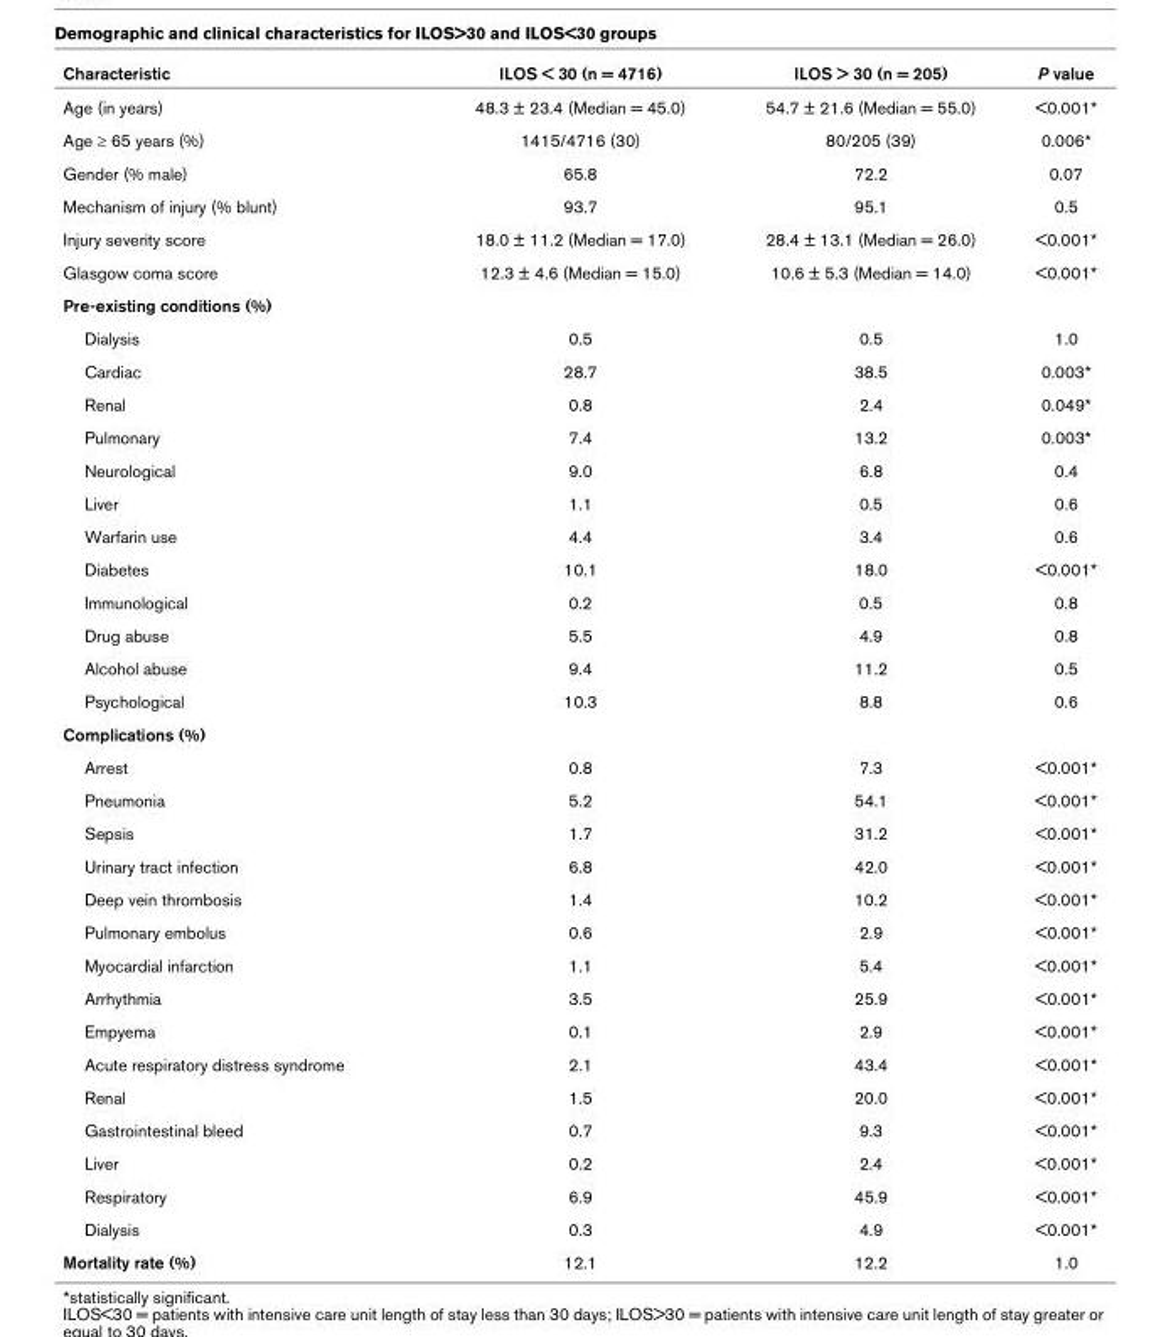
<table><thead><tr><td>Characteristic</td><td>ILOS &lt; 30 (n = 4716)</td><td>ILOS &gt; 30 (n = 205)</td><td>P value</td></tr></thead><tbody><tr><td>Age (in years)</td><td>48.3 ± 23.4 (Median = 45.0)</td><td>54.7 ± 21.6 (Median = 55.0)</td><td>&lt;0.001*</td></tr><tr><td>Age ≥ 65 years (%)</td><td>1415/4716 (30)</td><td>80/205 (39)</td><td>0.006*</td></tr><tr><td>Gender (% male)</td><td>65.8</td><td>72.2</td><td>0.07</td></tr><tr><td>Mechanism of injury (% blunt)</td><td>93.7</td><td>95.1</td><td>0.5</td></tr><tr><td>Injury severity score</td><td>18.0 ± 11.2 (Median = 17.0)</td><td>28.4 ± 13.1 (Median = 26.0)</td><td>&lt;0.001*</td></tr><tr><td>Glasgow coma score</td><td>12.3 ± 4.6 (Median = 15.0)</td><td>10.6 ± 5.3 (Median = 14.0)</td><td>&lt;0.001*</td></tr><tr><td colspan="4">Pre-existing conditions (%)</td></tr><tr><td>Dialysis</td><td>0.5</td><td>0.5</td><td>1.0</td></tr><tr><td>Cardiac</td><td>28.7</td><td>38.5</td><td>0.003*</td></tr><tr><td>Renal</td><td>0.8</td><td>2.4</td><td>0.049*</td></tr><tr><td>Pulmonary</td><td>7.4</td><td>13.2</td><td>0.003*</td></tr><tr><td>Neurological</td><td>9.0</td><td>6.8</td><td>0.4</td></tr><tr><td>Liver</td><td>1.1</td><td>0.5</td><td>0.6</td></tr><tr><td>Warfarin use</td><td>4.4</td><td>3.4</td><td>0.6</td></tr><tr><td>Diabetes</td><td>10.1</td><td>18.0</td><td>&lt;0.001*</td></tr><tr><td>Immunological</td><td>0.2</td><td>0.5</td><td>0.8</td></tr><tr><td>Drug abuse</td><td>5.5</td><td>4.9</td><td>0.8</td></tr><tr><td>Alcohol abuse</td><td>9.4</td><td>11.2</td><td>0.5</td></tr><tr><td>Psychological</td><td>10.3</td><td>8.8</td><td>0.6</td></tr><tr><td colspan="4">Complications (%)</td></tr><tr><td>Arrest</td><td>0.8</td><td>7.3</td><td>&lt;0.001*</td></tr><tr><td>Pneumonia</td><td>5.2</td><td>54.1</td><td>&lt;0.001*</td></tr><tr><td>Sepsis</td><td>1.7</td><td>31.2</td><td>&lt;0.001*</td></tr><tr><td>Urinary tract infection</td><td>6.8</td><td>42.0</td><td>&lt;0.001*</td></tr><tr><td>Deep vein thrombosis</td><td>1.4</td><td>10.2</td><td>&lt;0.001*</td></tr><tr><td>Pulmonary embolus</td><td>0.6</td><td>2.9</td><td>&lt;0.001*</td></tr><tr><td>Myocardial infarction</td><td>1.1</td><td>5.4</td><td>&lt;0.001*</td></tr><tr><td>Arrhythmia</td><td>3.5</td><td>25.9</td><td>&lt;0.001*</td></tr><tr><td>Empyema</td><td>0.1</td><td>2.9</td><td>&lt;0.001*</td></tr><tr><td>Acute respiratory distress syndrome</td><td>2.1</td><td>43.4</td><td>&lt;0.001*</td></tr><tr><td>Renal</td><td>1.5</td><td>20.0</td><td>&lt;0.001*</td></tr><tr><td>Gastrointestinal bleed</td><td>0.7</td><td>9.3</td><td>&lt;0.001*</td></tr><tr><td>Liver</td><td>0.2</td><td>2.4</td><td>&lt;0.001*</td></tr><tr><td>Respiratory</td><td>6.9</td><td>45.9</td><td>&lt;0.001*</td></tr><tr><td>Dialysis</td><td>0.3</td><td>4.9</td><td>&lt;0.001*</td></tr><tr><td>Mortality rate (%)</td><td>12.1</td><td>12.2</td><td>1.0</td></tr></tbody></table>